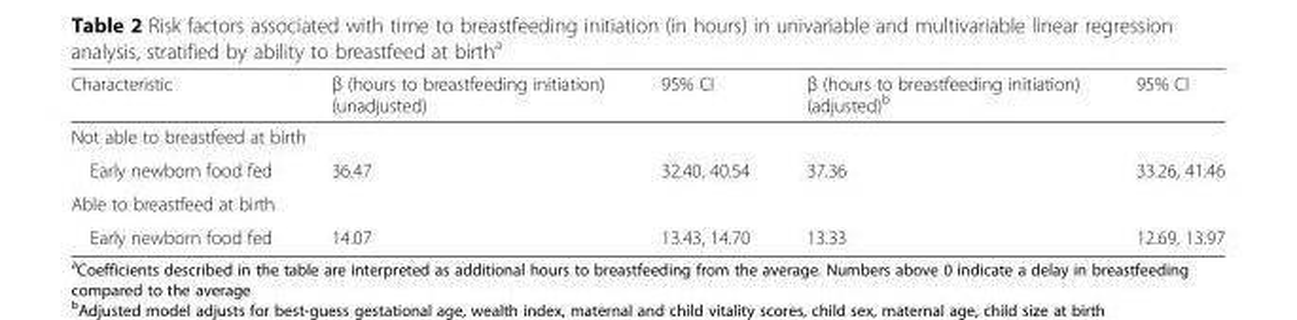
<table><thead><tr><td>Characteristic</td><td>β (hours to breastfeeding initiation) (unadjusted)</td><td>95% CI</td><td>β (hours to breastfeeding initiation) (adjusted)<sup>b</sup></td><td>95% CI</td></tr></thead><tbody><tr><td colspan="5">Not able to breastfeed at birth</td></tr><tr><td>Early newborn food fed</td><td>36.47</td><td>32.40, 40.54</td><td>37.36</td><td>33.26, 41.46</td></tr><tr><td colspan="5">Able to breastfeed at birth</td></tr><tr><td>Early newborn food fed</td><td>14.07</td><td>13.43, 14.70</td><td>13.33</td><td>12.69, 13.97</td></tr></tbody></table>